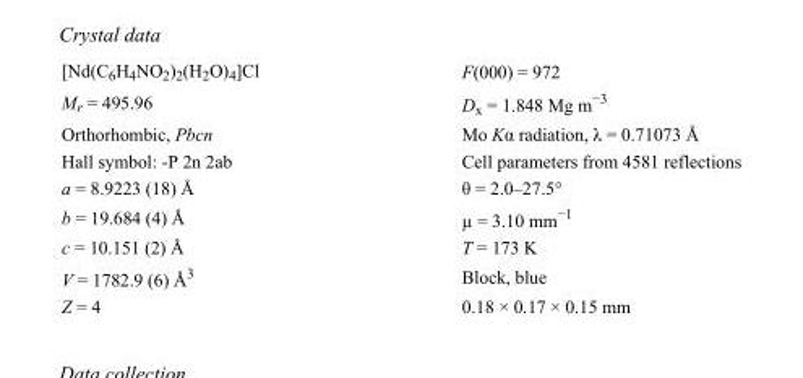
<table><tbody><tr><td>[Nd(C<sub>6</sub>H<sub>4</sub>NO<sub>2</sub>)<sub>2</sub>(H<sub>2</sub>O)<sub>4</sub>]Cl</td><td>F(000) = 972</td></tr><tr><td>M<sub>r</sub> = 495.96</td><td>D<sub>x</sub> = 1.848 Mg m<sup>−3</sup></td></tr><tr><td>Orthorhombic, Pbcn</td><td>Mo Kα radiation, λ = 0.71073 Å</td></tr><tr><td>Hall symbol: -P 2n 2ab</td><td>Cell parameters from 4581 reflections</td></tr><tr><td>a = 8.9223 (18) Å</td><td>θ = 2.0–27.5°</td></tr><tr><td>b = 19.684 (4) Å</td><td>µ = 3.10 mm<sup>−1</sup></td></tr><tr><td>c = 10.151 (2) Å</td><td>T = 173 K</td></tr><tr><td>V = 1782.9 (6) Å<sup>3</sup></td><td>Block, blue</td></tr><tr><td>Z = 4</td><td>0.18 × 0.17 × 0.15 mm</td></tr></tbody></table>